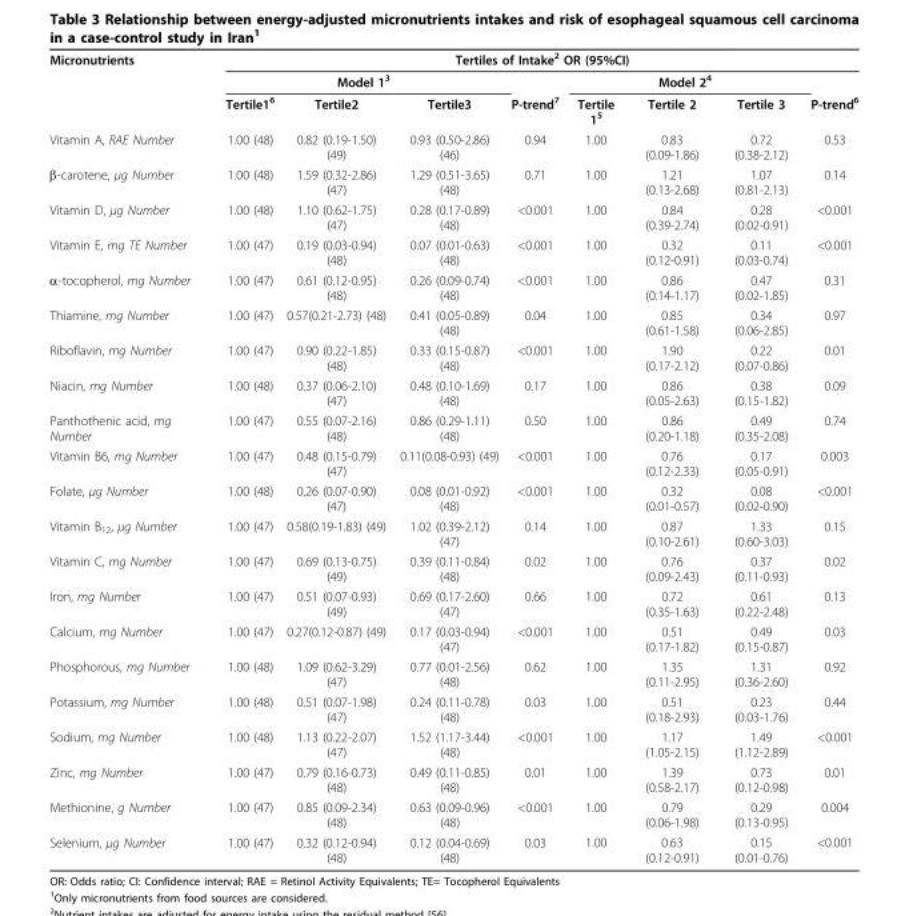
<table><tbody><tr><td rowspan="3">Micronutrients</td><td colspan="8">Tertiles of Intake<sup>2</sup> OR (95%CI)</td></tr><tr><td colspan="3">Model 1<sup>3</sup></td><td></td><td colspan="3">Model 2<sup>4</sup></td><td></td></tr><tr><td>Tertile1<sup>6</sup></td><td>Tertile2</td><td>Tertile3</td><td>P-trend<sup>7</sup></td><td>Tertile 1<sup>5</sup></td><td>Tertile 2</td><td>Tertile 3</td><td>P-trend<sup>6</sup></td></tr><tr><td>Vitamin A, RAE Number</td><td>1.00 (48)</td><td>0.82 (0.19-1.50) (49)</td><td>0.93 (0.50-2.86) (46)</td><td>0.94</td><td>1.00</td><td>0.83 (0.09-1.86)</td><td>0.72 (0.38-2.12)</td><td>0.53</td></tr><tr><td>β-carotene, μg Number</td><td>1.00 (48)</td><td>1.59 (0.32-2.86) (47)</td><td>1.29 (0.51-3.65) (48)</td><td>0.71</td><td>1.00</td><td>1.21 (0.13-2.68)</td><td>1.07 (0.81-2.13)</td><td>0.14</td></tr><tr><td>Vitamin D, μg Number</td><td>1.00 (48)</td><td>1.10 (0.62-1.75) (47)</td><td>0.28 (0.17-0.89) (48)</td><td>&lt;0.001</td><td>1.00</td><td>0.84 (0.39-2.74)</td><td>0.28 (0.02-0.91)</td><td>&lt;0.001</td></tr><tr><td>Vitamin E, mg TE Number</td><td>1.00 (47)</td><td>0.19 (0.03-0.94) (48)</td><td>0.07 (0.01-0.63) (48)</td><td>&lt;0.001</td><td>1.00</td><td>0.32 (0.12-0.91)</td><td>0.11 (0.03-0.74)</td><td>&lt;0.001</td></tr><tr><td>α-tocopherol, mg Number</td><td>1.00 (47)</td><td>0.61 (0.12-0.95) (48)</td><td>0.26 (0.09-0.74) (48)</td><td>&lt;0.001</td><td>1.00</td><td>0.86 (0.14-1.17)</td><td>0.47 (0.02-1.85)</td><td>0.31</td></tr><tr><td>Thiamine, mg Number</td><td>1.00 (47)</td><td>0.57(0.21-2.73) (48)</td><td>0.41 (0.05-0.89) (48)</td><td>0.04</td><td>1.00</td><td>0.85 (0.61-1.58)</td><td>0.34 (0.06-2.85)</td><td>0.97</td></tr><tr><td>Riboflavin, mg Number</td><td>1.00 (47)</td><td>0.90 (0.22-1.85) (48)</td><td>0.33 (0.15-0.87) (48)</td><td>&lt;0.001</td><td>1.00</td><td>1.90 (0.17-2.12)</td><td>0.22 (0.07-0.86)</td><td>0.01</td></tr><tr><td>Niacin, mg Number</td><td>1.00 (48)</td><td>0.37 (0.06-2.10) (47)</td><td>0.48 (0.10-1.69) (48)</td><td>0.17</td><td>1.00</td><td>0.86 (0.05-2.63)</td><td>0.38 (0.15-1.82)</td><td>0.09</td></tr><tr><td>Panthothenic acid, mg Number</td><td>1.00 (47)</td><td>0.55 (0.07-2.16) (48)</td><td>0.86 (0.29-1.11) (48)</td><td>0.50</td><td>1.00</td><td>0.86 (0.20-1.18)</td><td>0.49 (0.35-2.08)</td><td>0.74</td></tr><tr><td>Vitamin B6, mg Number</td><td>1.00 (47)</td><td>0.48 (0.15-0.79) (47)</td><td>0.11(0.08-0.93) (49)</td><td>&lt;0.001</td><td>1.00</td><td>0.76 (0.12-2.33)</td><td>0.17 (0.05-0.91)</td><td>0.003</td></tr><tr><td>Folate, μg Number</td><td>1.00 (48)</td><td>0.26 (0.07-0.90) (47)</td><td>0.08 (0.01-0.92) (48)</td><td>&lt;0.001</td><td>1.00</td><td>0.32 (0.01-0.57)</td><td>0.08 (0.02-0.90)</td><td>&lt;0.001</td></tr><tr><td>Vitamin B<sub>12</sub>, μg Number</td><td>1.00 (47)</td><td>0.58(0.19-1.83) (49)</td><td>1.02 (0.39-2.12) (47)</td><td>0.14</td><td>1.00</td><td>0.87 (0.10-2.61)</td><td>1.33 (0.60-3.03)</td><td>0.15</td></tr><tr><td>Vitamin C, mg Number</td><td>1.00 (47)</td><td>0.69 (0.13-0.75) (49)</td><td>0.39 (0.11-0.84) (48)</td><td>0.02</td><td>1.00</td><td>0.76 (0.09-2.43)</td><td>0.37 (0.11-0.93)</td><td>0.02</td></tr><tr><td>Iron, mg Number</td><td>1.00 (47)</td><td>0.51 (0.07-0.93) (49)</td><td>0.69 (0.17-2.60) (47)</td><td>0.66</td><td>1.00</td><td>0.72 (0.35-1.63)</td><td>0.61 (0.22-2.48)</td><td>0.13</td></tr><tr><td>Calcium, mg Number</td><td>1.00 (47)</td><td>0.27(0.12-0.87) (49)</td><td>0.17 (0.03-0.94) (47)</td><td>&lt;0.001</td><td>1.00</td><td>0.51 (0.17-1.82)</td><td>0.49 (0.15-0.87)</td><td>0.03</td></tr><tr><td>Phosphorous, mg Number</td><td>1.00 (48)</td><td>1.09 (0.62-3.29) (47)</td><td>0.77 (0.01-2.56) (48)</td><td>0.62</td><td>1.00</td><td>1.35 (0.11-2.95)</td><td>1.31 (0.36-2.60)</td><td>0.92</td></tr><tr><td>Potassium, mg Number</td><td>1.00 (48)</td><td>0.51 (0.07-1.98) (47)</td><td>0.24 (0.11-0.78) (48)</td><td>0.03</td><td>1.00</td><td>0.51 (0.18-2.93)</td><td>0.23 (0.03-1.76)</td><td>0.44</td></tr><tr><td>Sodium, mg Number</td><td>1.00 (48)</td><td>1.13 (0.22-2.07) (47)</td><td>1.52 (1.17-3.44) (48)</td><td>&lt;0.001</td><td>1.00</td><td>1.17 (1.05-2.15)</td><td>1.49 (1.12-2.89)</td><td>&lt;0.001</td></tr><tr><td>Zinc, mg Number</td><td>1.00 (47)</td><td>0.79 (0.16-0.73) (48)</td><td>0.49 (0.11-0.85) (48)</td><td>0.01</td><td>1.00</td><td>1.39 (0.58-2.17)</td><td>0.73 (0.12-0.98)</td><td>0.01</td></tr><tr><td>Methionine, g Number</td><td>1.00 (47)</td><td>0.85 (0.09-2.34) (48)</td><td>0.63 (0.09-0.96) (48)</td><td>&lt;0.001</td><td>1.00</td><td>0.79 (0.06-1.98)</td><td>0.29 (0.13-0.95)</td><td>0.004</td></tr><tr><td>Selenium, μg Number</td><td>1.00 (47)</td><td>0.32 (0.12-0.94) (48)</td><td>0.12 (0.04-0.69) (48)</td><td>0.03</td><td>1.00</td><td>0.63 (0.12-0.91)</td><td>0.15 (0.01-0.76)</td><td>&lt;0.001</td></tr></tbody></table>